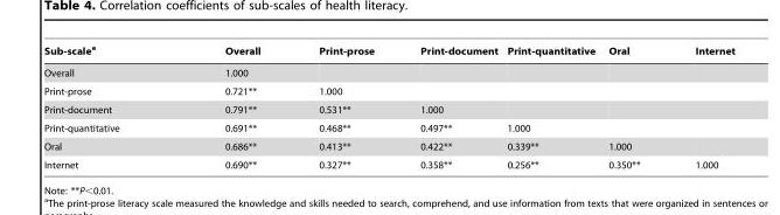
<table><thead><tr><td>Sub-scale<sup>a</sup></td><td>Overall</td><td>Print-prose</td><td>Print-document</td><td>Print-quantitative</td><td>Oral</td><td>Internet</td></tr></thead><tbody><tr><td>Overall</td><td>1.000</td><td></td><td></td><td></td><td></td><td></td></tr><tr><td>Print-prose</td><td>0.721**</td><td>1.000</td><td></td><td></td><td></td><td></td></tr><tr><td>Print-document</td><td>0.791**</td><td>0.531**</td><td>1.000</td><td></td><td></td><td></td></tr><tr><td>Print-quantitative</td><td>0.691**</td><td>0.468**</td><td>0.497**</td><td>1.000</td><td></td><td></td></tr><tr><td>Oral</td><td>0.686**</td><td>0.413**</td><td>0.422**</td><td>0.339**</td><td>1.000</td><td></td></tr><tr><td>Internet</td><td>0.690**</td><td>0.327**</td><td>0.358**</td><td>0.256**</td><td>0.350**</td><td>1.000</td></tr></tbody></table>